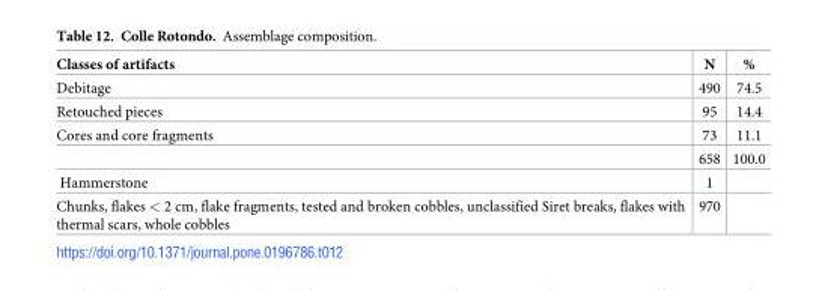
<table><thead><tr><td>Classes of artifacts</td><td>N</td><td>%</td></tr></thead><tbody><tr><td>Debitage</td><td>490</td><td>74.5</td></tr><tr><td>Retouched pieces</td><td>95</td><td>14.4</td></tr><tr><td rowspan="2">Cores and core fragments</td><td>73</td><td>11.1</td></tr><tr><td>658</td><td>100.0</td></tr><tr><td>Hammerstone</td><td>1</td><td></td></tr><tr><td>Chunks, flakes &lt; 2 cm, flake fragments, tested and broken cobbles, unclassified Siret breaks, flakes with thermal scars, whole cobbles</td><td>970</td><td></td></tr></tbody></table>